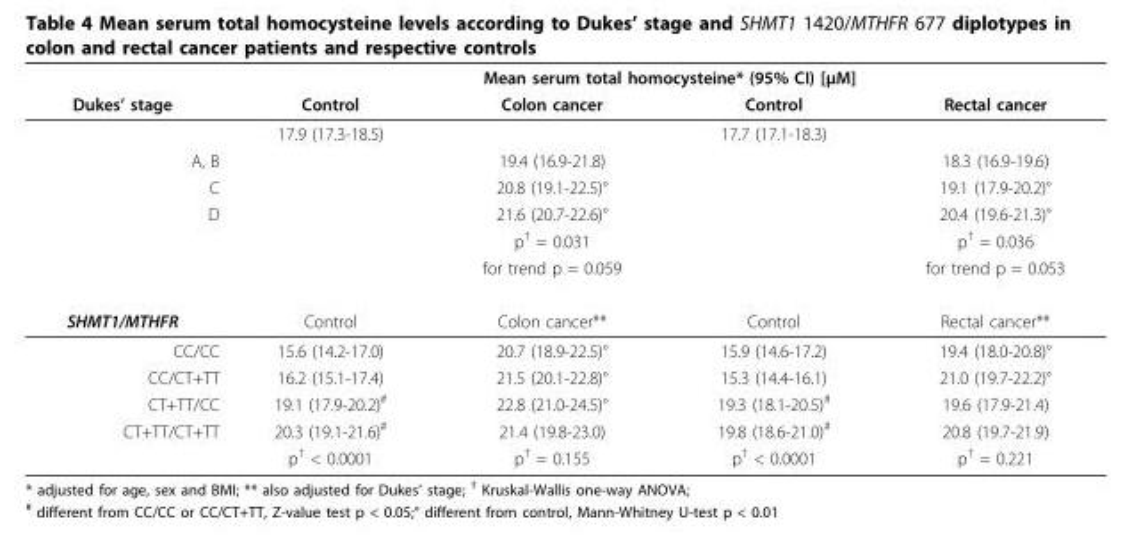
<table><thead><tr><td rowspan="2">Dukes’ stage</td><td colspan="4">Mean serum total homocysteine* (95% CI) [μM]</td></tr><tr><td>Control</td><td>Colon cancer</td><td>Control</td><td>Rectal cancer</td></tr></thead><tbody><tr><td></td><td>17.9 (17.3-18.5)</td><td></td><td>17.7 (17.1-18.3)</td><td></td></tr><tr><td>A, B</td><td></td><td>19.4 (16.9-21.8)</td><td></td><td>18.3 (16.9-19.6)</td></tr><tr><td>C</td><td></td><td>20.8 (19.1-22.5)°</td><td></td><td>19.1 (17.9-20.2)°</td></tr><tr><td rowspan="3">D</td><td></td><td>21.6 (20.7-22.6)°</td><td></td><td>20.4 (19.6-21.3)°</td></tr><tr><td></td><td>p<sup>†</sup> = 0.031</td><td></td><td>p<sup>†</sup> = 0.036</td></tr><tr><td></td><td>for trend p = 0.059</td><td></td><td>for trend p = 0.053</td></tr><tr><td>SHMT1/MTHFR</td><td>Control</td><td>Colon cancer**</td><td>Control</td><td>Rectal cancer**</td></tr><tr><td>CC/CC</td><td>15.6 (14.2-17.0)</td><td>20.7 (18.9-22.5)°</td><td>15.9 (14.6-17.2)</td><td>19.4 (18.0-20.8)°</td></tr><tr><td>CC/CT+TT</td><td>16.2 (15.1-17.4)</td><td>21.5 (20.1-22.8)°</td><td>15.3 (14.4-16.1)</td><td>21.0 (19.7-22.2)°</td></tr><tr><td>CT+TT/CC</td><td>19.1 (17.9-20.2)<sup>#</sup></td><td>22.8 (21.0-24.5)°</td><td>19.3 (18.1-20.5)<sup>#</sup></td><td>19.6 (17.9-21.4)</td></tr><tr><td rowspan="2">CT+TT/CT+TT</td><td>20.3 (19.1-21.6)<sup>#</sup></td><td>21.4 (19.8-23.0)</td><td>19.8 (18.6-21.0)<sup>#</sup></td><td>20.8 (19.7-21.9)</td></tr><tr><td>p<sup>†</sup> &lt; 0.0001</td><td>p<sup>†</sup> = 0.155</td><td>p<sup>†</sup> &lt; 0.0001</td><td>p<sup>†</sup> = 0.221</td></tr></tbody></table>